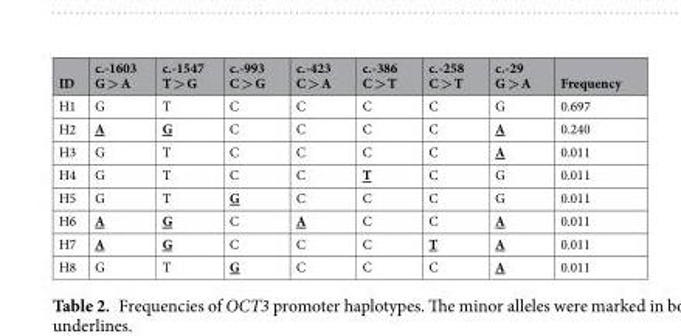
<table><thead><tr><td>ID</td><td>c.-1603 G &gt; A</td><td>c.-1547 T &gt; G</td><td>c.-993 C &gt; G</td><td>c.-423 C &gt; A</td><td>c.-386 C &gt; T</td><td>c.-258 C &gt; T</td><td>c.-29 G &gt; A</td><td>Frequency</td></tr></thead><tbody><tr><td>H1</td><td>G</td><td>T</td><td>C</td><td>C</td><td>C</td><td>C</td><td>G</td><td>0.697</td></tr><tr><td>H2</td><td>A</td><td>G</td><td>C</td><td>C</td><td>C</td><td>C</td><td>A</td><td>0.240</td></tr><tr><td>H3</td><td>G</td><td>T</td><td>C</td><td>C</td><td>C</td><td>C</td><td>A</td><td>0.011</td></tr><tr><td>H4</td><td>G</td><td>T</td><td>C</td><td>C</td><td>T</td><td>C</td><td>G</td><td>0.011</td></tr><tr><td>H5</td><td>G</td><td>T</td><td>G</td><td>C</td><td>C</td><td>C</td><td>G</td><td>0.011</td></tr><tr><td>H6</td><td>A</td><td>G</td><td>C</td><td>A</td><td>C</td><td>C</td><td>A</td><td>0.011</td></tr><tr><td>H7</td><td>A</td><td>G</td><td>C</td><td>C</td><td>C</td><td>T</td><td>A</td><td>0.011</td></tr><tr><td>H8</td><td>G</td><td>T</td><td>G</td><td>C</td><td>C</td><td>C</td><td>A</td><td>0.011</td></tr></tbody></table>